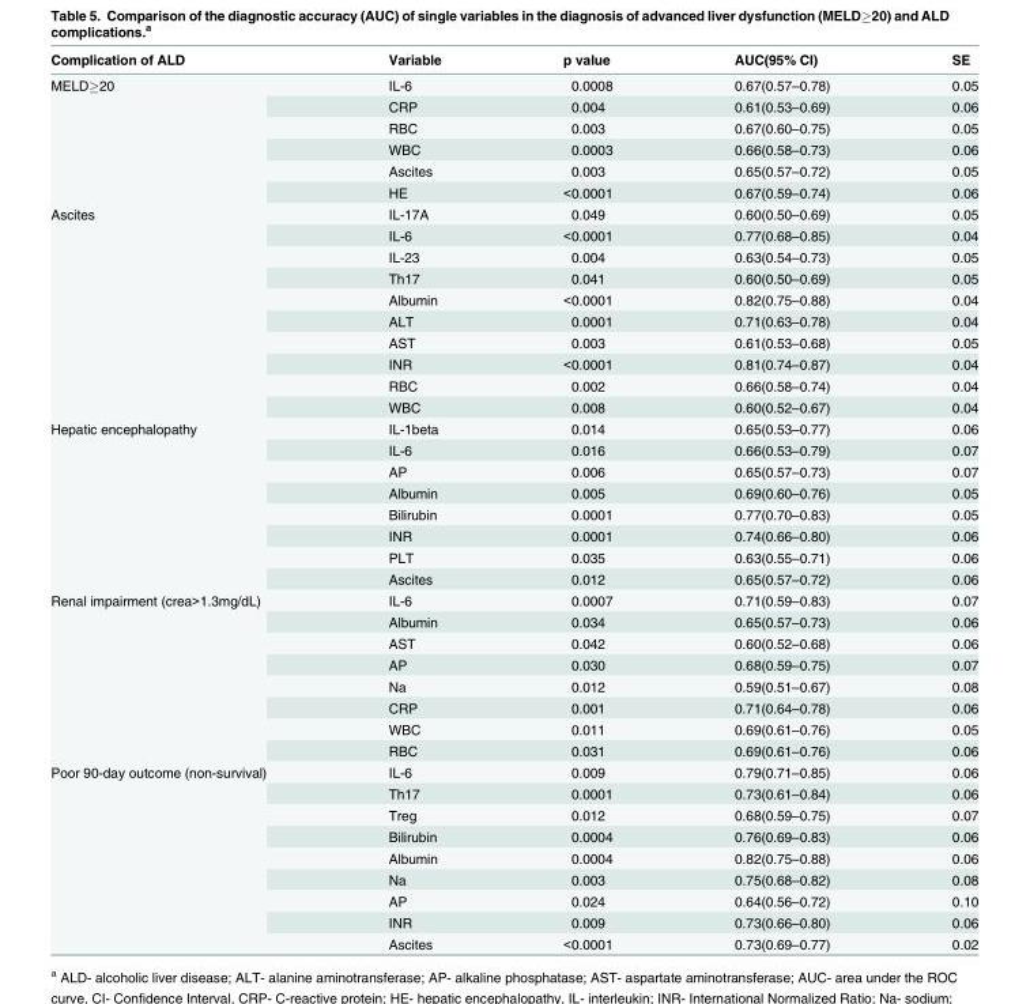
<table><thead><tr><td>Complication of ALD</td><td>Variable</td><td>p value</td><td>AUC(95% CI)</td><td>SE</td></tr></thead><tbody><tr><td rowspan="6">MELD≥20</td><td>IL-6</td><td>0.0008</td><td>0.67(0.57–0.78)</td><td>0.05</td></tr><tr><td>CRP</td><td>0.004</td><td>0.61(0.53–0.69)</td><td>0.06</td></tr><tr><td>RBC</td><td>0.003</td><td>0.67(0.60–0.75)</td><td>0.05</td></tr><tr><td>WBC</td><td>0.0003</td><td>0.66(0.58–0.73)</td><td>0.06</td></tr><tr><td>Ascites</td><td>0.003</td><td>0.65(0.57–0.72)</td><td>0.05</td></tr><tr><td>HE</td><td>&lt;0.0001</td><td>0.67(0.59–0.74)</td><td>0.06</td></tr><tr><td rowspan="10">Ascites</td><td>IL-17A</td><td>0.049</td><td>0.60(0.50–0.69)</td><td>0.05</td></tr><tr><td>IL-6</td><td>&lt;0.0001</td><td>0.77(0.68–0.85)</td><td>0.04</td></tr><tr><td>IL-23</td><td>0.004</td><td>0.63(0.54–0.73)</td><td>0.05</td></tr><tr><td>Th17</td><td>0.041</td><td>0.60(0.50–0.69)</td><td>0.05</td></tr><tr><td>Albumin</td><td>&lt;0.0001</td><td>0.82(0.75–0.88)</td><td>0.04</td></tr><tr><td>ALT</td><td>0.0001</td><td>0.71(0.63–0.78)</td><td>0.04</td></tr><tr><td>AST</td><td>0.003</td><td>0.61(0.53–0.68)</td><td>0.05</td></tr><tr><td>INR</td><td>&lt;0.0001</td><td>0.81(0.74–0.87)</td><td>0.04</td></tr><tr><td>RBC</td><td>0.002</td><td>0.66(0.58–0.74)</td><td>0.04</td></tr><tr><td>WBC</td><td>0.008</td><td>0.60(0.52–0.67)</td><td>0.04</td></tr><tr><td rowspan="8">Hepatic encephalopathy</td><td>IL-1beta</td><td>0.014</td><td>0.65(0.53–0.77)</td><td>0.06</td></tr><tr><td>IL-6</td><td>0.016</td><td>0.66(0.53–0.79)</td><td>0.07</td></tr><tr><td>AP</td><td>0.006</td><td>0.65(0.57–0.73)</td><td>0.07</td></tr><tr><td>Albumin</td><td>0.005</td><td>0.69(0.60–0.76)</td><td>0.05</td></tr><tr><td>Bilirubin</td><td>0.0001</td><td>0.77(0.70–0.83)</td><td>0.05</td></tr><tr><td>INR</td><td>0.0001</td><td>0.74(0.66–0.80)</td><td>0.06</td></tr><tr><td>PLT</td><td>0.035</td><td>0.63(0.55–0.71)</td><td>0.06</td></tr><tr><td>Ascites</td><td>0.012</td><td>0.65(0.57–0.72)</td><td>0.06</td></tr><tr><td rowspan="8">Renal impairment (crea&gt;1.3mg/dL)</td><td>IL-6</td><td>0.0007</td><td>0.71(0.59–0.83)</td><td>0.07</td></tr><tr><td>Albumin</td><td>0.034</td><td>0.65(0.57–0.73)</td><td>0.06</td></tr><tr><td>AST</td><td>0.042</td><td>0.60(0.52–0.68)</td><td>0.06</td></tr><tr><td>AP</td><td>0.030</td><td>0.68(0.59–0.75)</td><td>0.07</td></tr><tr><td>Na</td><td>0.012</td><td>0.59(0.51–0.67)</td><td>0.08</td></tr><tr><td>CRP</td><td>0.001</td><td>0.71(0.64–0.78)</td><td>0.06</td></tr><tr><td>WBC</td><td>0.011</td><td>0.69(0.61–0.76)</td><td>0.05</td></tr><tr><td>RBC</td><td>0.031</td><td>0.69(0.61–0.76)</td><td>0.06</td></tr><tr><td rowspan="9">Poor 90-day outcome (non-survival)</td><td>IL-6</td><td>0.009</td><td>0.79(0.71–0.85)</td><td>0.06</td></tr><tr><td>Th17</td><td>0.0001</td><td>0.73(0.61–0.84)</td><td>0.06</td></tr><tr><td>Treg</td><td>0.012</td><td>0.68(0.59–0.75)</td><td>0.07</td></tr><tr><td>Bilirubin</td><td>0.0004</td><td>0.76(0.69–0.83)</td><td>0.06</td></tr><tr><td>Albumin</td><td>0.0004</td><td>0.82(0.75–0.88)</td><td>0.06</td></tr><tr><td>Na</td><td>0.003</td><td>0.75(0.68–0.82)</td><td>0.08</td></tr><tr><td>AP</td><td>0.024</td><td>0.64(0.56–0.72)</td><td>0.10</td></tr><tr><td>INR</td><td>0.009</td><td>0.73(0.66–0.80)</td><td>0.06</td></tr><tr><td>Ascites</td><td>&lt;0.0001</td><td>0.73(0.69–0.77)</td><td>0.02</td></tr></tbody></table>